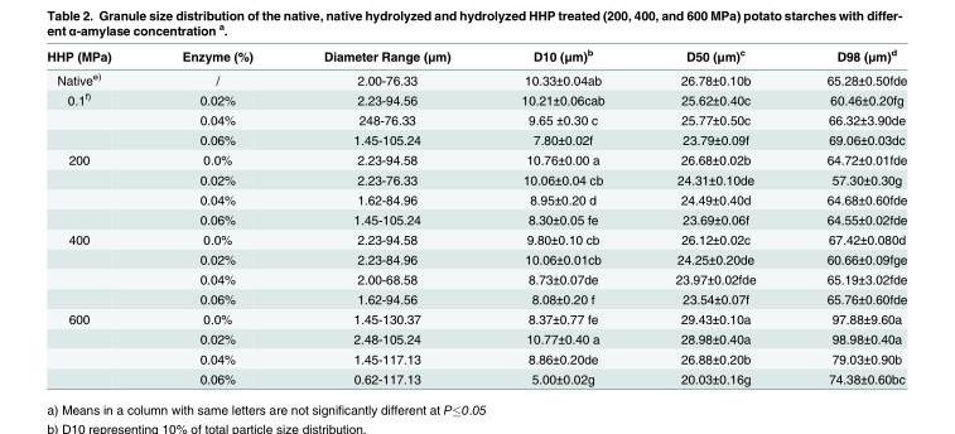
<table><thead><tr><td>HHP (MPa)</td><td>Enzyme (%)</td><td>Diameter Range (μm)</td><td>D10 (μm)<sup>b</sup></td><td>D50 (μm)<sup>c</sup></td><td>D98 (μm)<sup>d</sup></td></tr></thead><tbody><tr><td>Native<sup>e)</sup></td><td>/</td><td>2.00-76.33</td><td>10.33±0.04ab</td><td>26.78±0.10b</td><td>65.28±0.50fde</td></tr><tr><td rowspan="3">0.1<sup>f)</sup></td><td>0.02%</td><td>2.23-94.56</td><td>10.21±0.06cab</td><td>25.62±0.40c</td><td>60.46±0.20fg</td></tr><tr><td>0.04%</td><td>248-76.33</td><td>9.65 ±0.30 c</td><td>25.77±0.50c</td><td>66.32±3.90de</td></tr><tr><td>0.06%</td><td>1.45-105.24</td><td>7.80±0.02f</td><td>23.79±0.09f</td><td>69.06±0.03dc</td></tr><tr><td rowspan="4">200</td><td>0.0%</td><td>2.23-94.58</td><td>10.76±0.00 a</td><td>26.68±0.02b</td><td>64.72±0.01fde</td></tr><tr><td>0.02%</td><td>2.23-76.33</td><td>10.06±0.04 cb</td><td>24.31±0.10de</td><td>57.30±0.30g</td></tr><tr><td>0.04%</td><td>1.62-84.96</td><td>8.95±0.20 d</td><td>24.49±0.40d</td><td>64.68±0.60fde</td></tr><tr><td>0.06%</td><td>1.45-105.24</td><td>8.30±0.05 fe</td><td>23.69±0.06f</td><td>64.55±0.02fde</td></tr><tr><td rowspan="4">400</td><td>0.0%</td><td>2.23-94.58</td><td>9.80±0.10 cb</td><td>26.12±0.02c</td><td>67.42±0.080d</td></tr><tr><td>0.02%</td><td>2.23-84.96</td><td>10.06±0.01cb</td><td>24.25±0.20de</td><td>60.66±0.09fge</td></tr><tr><td>0.04%</td><td>2.00-68.58</td><td>8.73±0.07de</td><td>23.97±0.02fde</td><td>65.19±3.02fde</td></tr><tr><td>0.06%</td><td>1.62-94.56</td><td>8.08±0.20 f</td><td>23.54±0.07f</td><td>65.76±0.60fde</td></tr><tr><td rowspan="4">600</td><td>0.0%</td><td>1.45-130.37</td><td>8.37±0.77 fe</td><td>29.43±0.10a</td><td>97.88±9.60a</td></tr><tr><td>0.02%</td><td>2.48-105.24</td><td>10.77±0.40 a</td><td>28.98±0.40a</td><td>98.98±0.40a</td></tr><tr><td>0.04%</td><td>1.45-117.13</td><td>8.86±0.20de</td><td>26.88±0.20b</td><td>79.03±0.90b</td></tr><tr><td>0.06%</td><td>0.62-117.13</td><td>5.00±0.02g</td><td>20.03±0.16g</td><td>74.38±0.60bc</td></tr></tbody></table>